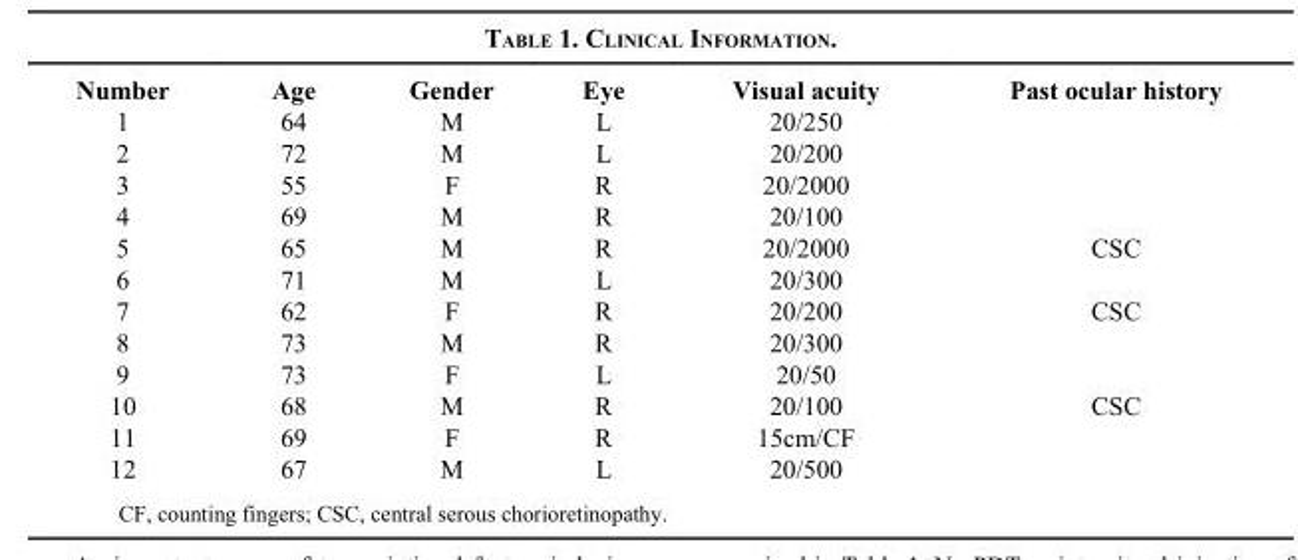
<table><thead><tr><td>Number</td><td>Age</td><td>Gender</td><td>Eye</td><td>Visual acuity</td><td>Past ocular history</td></tr></thead><tbody><tr><td>1</td><td>64</td><td>M</td><td>L</td><td>20/250</td><td></td></tr><tr><td>2</td><td>72</td><td>M</td><td>L</td><td>20/200</td><td></td></tr><tr><td>3</td><td>55</td><td>F</td><td>R</td><td>20/2000</td><td></td></tr><tr><td>4</td><td>69</td><td>M</td><td>R</td><td>20/100</td><td></td></tr><tr><td>5</td><td>65</td><td>M</td><td>R</td><td>20/2000</td><td>CSC</td></tr><tr><td>6</td><td>71</td><td>M</td><td>L</td><td>20/300</td><td></td></tr><tr><td>7</td><td>62</td><td>F</td><td>R</td><td>20/200</td><td>CSC</td></tr><tr><td>8</td><td>73</td><td>M</td><td>R</td><td>20/300</td><td></td></tr><tr><td>9</td><td>73</td><td>F</td><td>L</td><td>20/50</td><td></td></tr><tr><td>10</td><td>68</td><td>M</td><td>R</td><td>20/100</td><td>CSC</td></tr><tr><td>11</td><td>69</td><td>F</td><td>R</td><td>15cm/CF</td><td></td></tr><tr><td>12</td><td>67</td><td>M</td><td>L</td><td>20/500</td><td></td></tr></tbody></table>